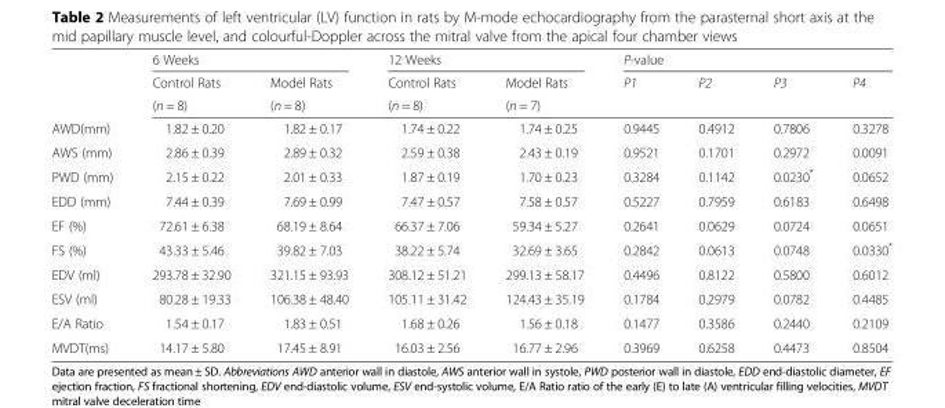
<table><thead><tr><td rowspan="3"></td><td colspan="2">6 Weeks</td><td colspan="2">12 Weeks</td><td colspan="4">P-value</td></tr><tr><td rowspan="2">Control Rats (n = 8)</td><td rowspan="2">Model Rats (n = 8)</td><td rowspan="2">Control Rats (n = 8)</td><td rowspan="2">Model Rats (n = 7)</td><td rowspan="2">P1</td><td rowspan="2">P2</td><td rowspan="2">P3</td><td rowspan="2">P4</td></tr><tr></tr></thead><tbody><tr><td>AWD(mm)</td><td>1.82 ± 0.20</td><td>1.82 ± 0.17</td><td>1.74 ± 0.22</td><td>1.74 ± 0.25</td><td>0.9445</td><td>0.4912</td><td>0.7806</td><td>0.3278</td></tr><tr><td>AWS (mm)</td><td>2.86 ± 0.39</td><td>2.89 ± 0.32</td><td>2.59 ± 0.38</td><td>2.43 ± 0.19</td><td>0.9521</td><td>0.1701</td><td>0.2972</td><td>0.0091</td></tr><tr><td>PWD (mm)</td><td>2.15 ± 0.22</td><td>2.01 ± 0.33</td><td>1.87 ± 0.19</td><td>1.70 ± 0.23</td><td>0.3284</td><td>0.1142</td><td>0.0230*</td><td>0.0652</td></tr><tr><td>EDD (mm)</td><td>7.44 ± 0.39</td><td>7.69 ± 0.99</td><td>7.47 ± 0.57</td><td>7.58 ± 0.57</td><td>0.5227</td><td>0.7959</td><td>0.6183</td><td>0.6498</td></tr><tr><td>EF (%)</td><td>72.61 ± 6.38</td><td>68.19 ± 8.64</td><td>66.37 ± 7.06</td><td>59.34 ± 5.27</td><td>0.2641</td><td>0.0629</td><td>0.0724</td><td>0.0651</td></tr><tr><td>FS (%)</td><td>43.33 ± 5.46</td><td>39.82 ± 7.03</td><td>38.22 ± 5.74</td><td>32.69 ± 3.65</td><td>0.2842</td><td>0.0613</td><td>0.0748</td><td>0.0330*</td></tr><tr><td>EDV (ml)</td><td>293.78 ± 32.90</td><td>321.15 ± 93.93</td><td>308.12 ± 51.21</td><td>299.13 ± 58.17</td><td>0.4496</td><td>0.8122</td><td>0.5800</td><td>0.6012</td></tr><tr><td>ESV (ml)</td><td>80.28 ± 19.33</td><td>106.38 ± 48.40</td><td>105.11 ± 31.42</td><td>124.43 ± 35.19</td><td>0.1784</td><td>0.2979</td><td>0.0782</td><td>0.4485</td></tr><tr><td>E/A Ratio</td><td>1.54 ± 0.17</td><td>1.83 ± 0.51</td><td>1.68 ± 0.26</td><td>1.56 ± 0.18</td><td>0.1477</td><td>0.3586</td><td>0.2440</td><td>0.2109</td></tr><tr><td>MVDT(ms)</td><td>14.17 ± 5.80</td><td>17.45 ± 8.91</td><td>16.03 ± 2.56</td><td>16.77 ± 2.96</td><td>0.3969</td><td>0.6258</td><td>0.4473</td><td>0.8504</td></tr></tbody></table>